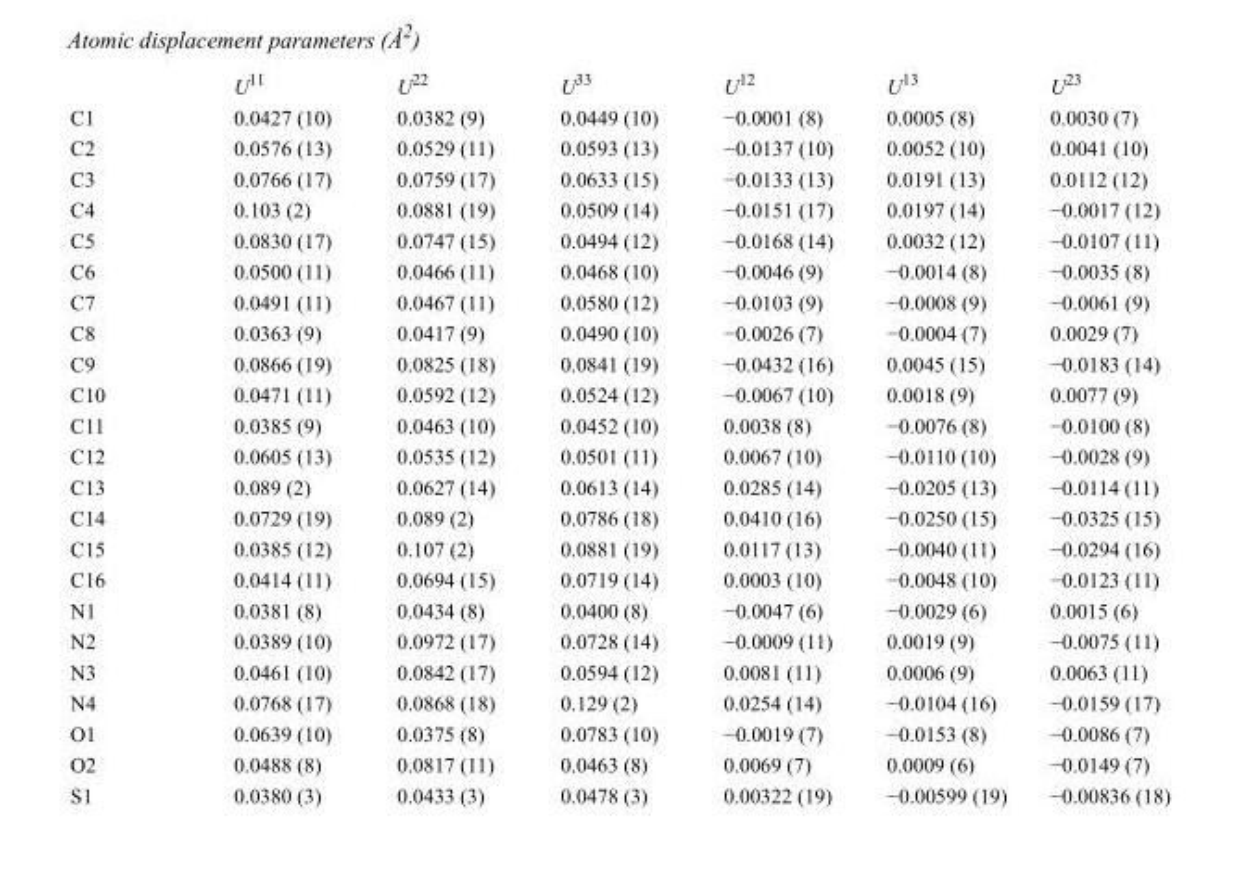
<table><thead><tr><td></td><td>U<sup>11</sup></td><td>U<sup>22</sup></td><td>U<sup>33</sup></td><td>U<sup>12</sup></td><td>U<sup>13</sup></td><td>U<sup>23</sup></td></tr></thead><tbody><tr><td>C1</td><td>0.0427 (10)</td><td>0.0382 (9)</td><td>0.0449 (10)</td><td>−0.0001 (8)</td><td>0.0005 (8)</td><td>0.0030 (7)</td></tr><tr><td>C2</td><td>0.0576 (13)</td><td>0.0529 (11)</td><td>0.0593 (13)</td><td>−0.0137 (10)</td><td>0.0052 (10)</td><td>0.0041 (10)</td></tr><tr><td>C3</td><td>0.0766 (17)</td><td>0.0759 (17)</td><td>0.0633 (15)</td><td>−0.0133 (13)</td><td>0.0191 (13)</td><td>0.0112 (12)</td></tr><tr><td>C4</td><td>0.103 (2)</td><td>0.0881 (19)</td><td>0.0509 (14)</td><td>−0.0151 (17)</td><td>0.0197 (14)</td><td>−0.0017 (12)</td></tr><tr><td>C5</td><td>0.0830 (17)</td><td>0.0747 (15)</td><td>0.0494 (12)</td><td>−0.0168 (14)</td><td>0.0032 (12)</td><td>−0.0107 (11)</td></tr><tr><td>C6</td><td>0.0500 (11)</td><td>0.0466 (11)</td><td>0.0468 (10)</td><td>−0.0046 (9)</td><td>−0.0014 (8)</td><td>−0.0035 (8)</td></tr><tr><td>C7</td><td>0.0491 (11)</td><td>0.0467 (11)</td><td>0.0580 (12)</td><td>−0.0103 (9)</td><td>−0.0008 (9)</td><td>−0.0061 (9)</td></tr><tr><td>C8</td><td>0.0363 (9)</td><td>0.0417 (9)</td><td>0.0490 (10)</td><td>−0.0026 (7)</td><td>−0.0004 (7)</td><td>0.0029 (7)</td></tr><tr><td>C9</td><td>0.0866 (19)</td><td>0.0825 (18)</td><td>0.0841 (19)</td><td>−0.0432 (16)</td><td>0.0045 (15)</td><td>−0.0183 (14)</td></tr><tr><td>C10</td><td>0.0471 (11)</td><td>0.0592 (12)</td><td>0.0524 (12)</td><td>−0.0067 (10)</td><td>0.0018 (9)</td><td>0.0077 (9)</td></tr><tr><td>C11</td><td>0.0385 (9)</td><td>0.0463 (10)</td><td>0.0452 (10)</td><td>0.0038 (8)</td><td>−0.0076 (8)</td><td>−0.0100 (8)</td></tr><tr><td>C12</td><td>0.0605 (13)</td><td>0.0535 (12)</td><td>0.0501 (11)</td><td>0.0067 (10)</td><td>−0.0110 (10)</td><td>−0.0028 (9)</td></tr><tr><td>C13</td><td>0.089 (2)</td><td>0.0627 (14)</td><td>0.0613 (14)</td><td>0.0285 (14)</td><td>−0.0205 (13)</td><td>−0.0114 (11)</td></tr><tr><td>C14</td><td>0.0729 (19)</td><td>0.089 (2)</td><td>0.0786 (18)</td><td>0.0410 (16)</td><td>−0.0250 (15)</td><td>−0.0325 (15)</td></tr><tr><td>C15</td><td>0.0385 (12)</td><td>0.107 (2)</td><td>0.0881 (19)</td><td>0.0117 (13)</td><td>−0.0040 (11)</td><td>−0.0294 (16)</td></tr><tr><td>C16</td><td>0.0414 (11)</td><td>0.0694 (15)</td><td>0.0719 (14)</td><td>0.0003 (10)</td><td>−0.0048 (10)</td><td>−0.0123 (11)</td></tr><tr><td>N1</td><td>0.0381 (8)</td><td>0.0434 (8)</td><td>0.0400 (8)</td><td>−0.0047 (6)</td><td>−0.0029 (6)</td><td>0.0015 (6)</td></tr><tr><td>N2</td><td>0.0389 (10)</td><td>0.0972 (17)</td><td>0.0728 (14)</td><td>−0.0009 (11)</td><td>0.0019 (9)</td><td>−0.0075 (11)</td></tr><tr><td>N3</td><td>0.0461 (10)</td><td>0.0842 (17)</td><td>0.0594 (12)</td><td>0.0081 (11)</td><td>0.0006 (9)</td><td>0.0063 (11)</td></tr><tr><td>N4</td><td>0.0768 (17)</td><td>0.0868 (18)</td><td>0.129 (2)</td><td>0.0254 (14)</td><td>−0.0104 (16)</td><td>−0.0159 (17)</td></tr><tr><td>O1</td><td>0.0639 (10)</td><td>0.0375 (8)</td><td>0.0783 (10)</td><td>−0.0019 (7)</td><td>−0.0153 (8)</td><td>−0.0086 (7)</td></tr><tr><td>O2</td><td>0.0488 (8)</td><td>0.0817 (11)</td><td>0.0463 (8)</td><td>0.0069 (7)</td><td>0.0009 (6)</td><td>−0.0149 (7)</td></tr><tr><td>S1</td><td>0.0380 (3)</td><td>0.0433 (3)</td><td>0.0478 (3)</td><td>0.00322 (19)</td><td>−0.00599 (19)</td><td>−0.00836 (18)</td></tr></tbody></table>